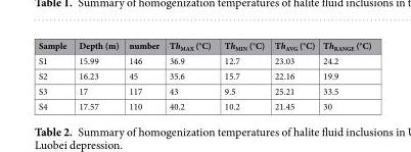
<table><thead><tr><td>Sample</td><td>Depth (m)</td><td>number</td><td>Th<sub>MAX</sub> (°C)</td><td>Th<sub>MIN</sub> (°C)</td><td>Th<sub>AVG</sub> (°C)</td><td>Th<sub>RANGE</sub> (°C)</td></tr></thead><tbody><tr><td>S1</td><td>15.99</td><td>146</td><td>36.9</td><td>12.7</td><td>23.03</td><td>24.2</td></tr><tr><td>S2</td><td>16.23</td><td>45</td><td>35.6</td><td>15.7</td><td>22.16</td><td>19.9</td></tr><tr><td>S3</td><td>17</td><td>117</td><td>43</td><td>9.5</td><td>25.21</td><td>33.5</td></tr><tr><td>S4</td><td>17.57</td><td>110</td><td>40.2</td><td>10.2</td><td>21.45</td><td>30</td></tr></tbody></table>